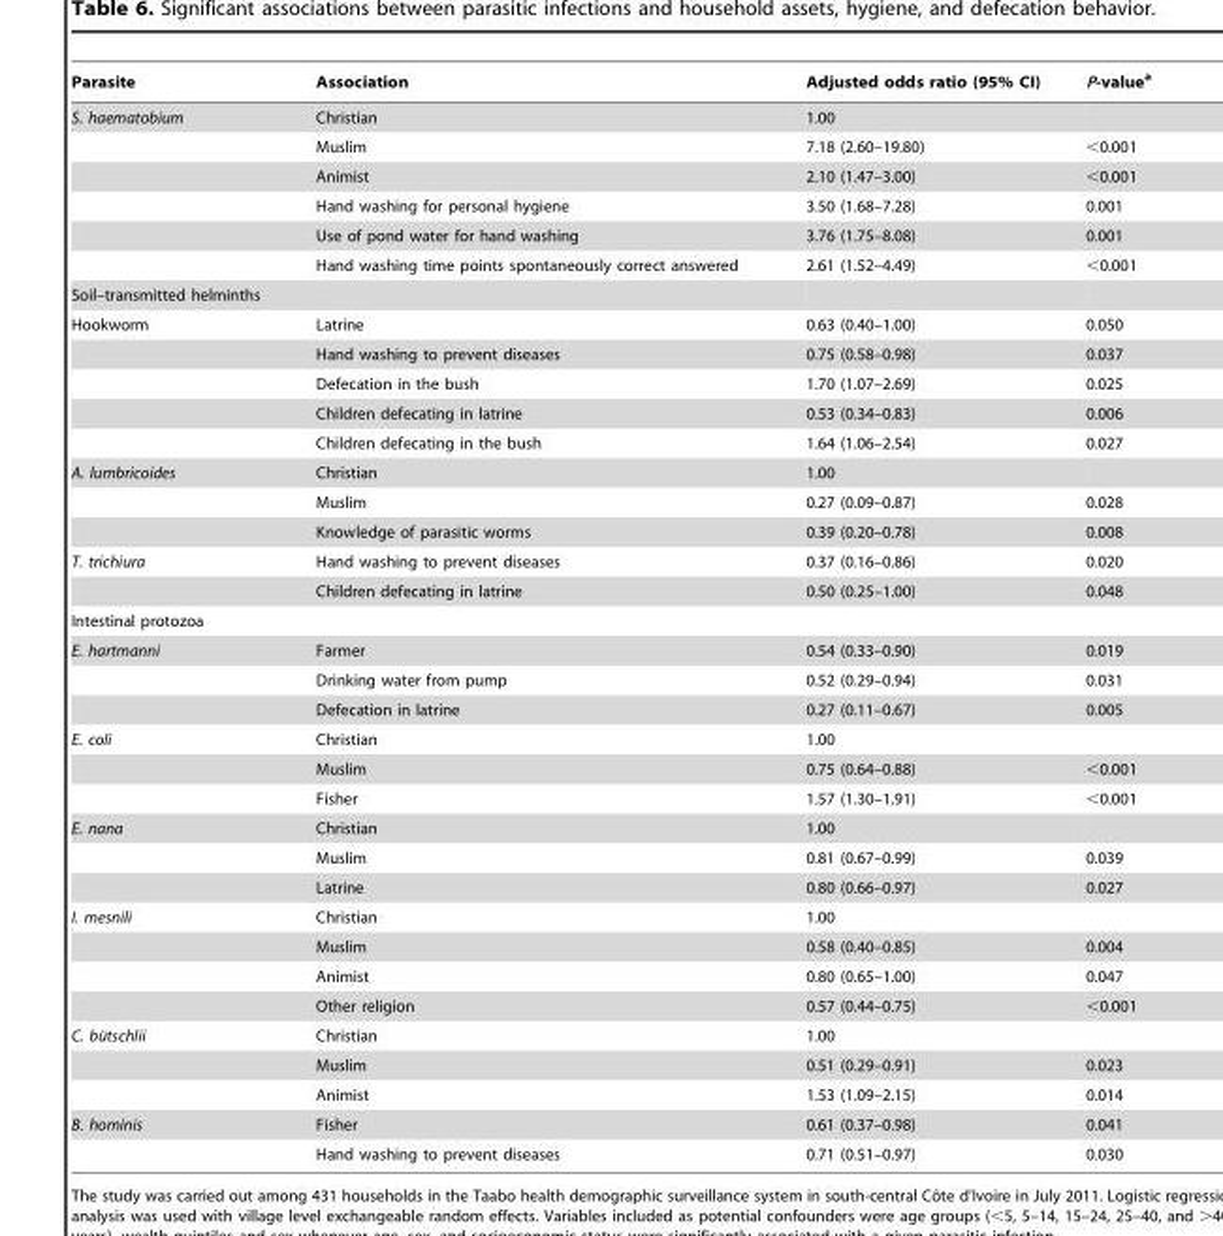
<table><thead><tr><td>Parasite</td><td>Association</td><td>Adjusted odds ratio (95% CI)</td><td>P-value<sup>a</sup></td></tr></thead><tbody><tr><td rowspan="6">S. haematobium</td><td>Christian</td><td>1.00</td><td></td></tr><tr><td>Muslim</td><td>7.18 (2.60–19.80)</td><td>&lt;0.001</td></tr><tr><td>Animist</td><td>2.10 (1.47–3.00)</td><td>&lt;0.001</td></tr><tr><td>Hand washing for personal hygiene</td><td>3.50 (1.68–7.28)</td><td>0.001</td></tr><tr><td>Use of pond water for hand washing</td><td>3.76 (1.75–8.08)</td><td>0.001</td></tr><tr><td>Hand washing time points spontaneously correct answered</td><td>2.61 (1.52–4.49)</td><td>&lt;0.001</td></tr><tr><td colspan="4">Soil–transmitted helminths</td></tr><tr><td rowspan="5">Hookworm</td><td>Latrine</td><td>0.63 (0.40–1.00)</td><td>0.050</td></tr><tr><td>Hand washing to prevent diseases</td><td>0.75 (0.58–0.98)</td><td>0.037</td></tr><tr><td>Defecation in the bush</td><td>1.70 (1.07–2.69)</td><td>0.025</td></tr><tr><td>Children defecating in latrine</td><td>0.53 (0.34–0.83)</td><td>0.006</td></tr><tr><td>Children defecating in the bush</td><td>1.64 (1.06–2.54)</td><td>0.027</td></tr><tr><td rowspan="3">A. lumbricoides</td><td>Christian</td><td>1.00</td><td></td></tr><tr><td>Muslim</td><td>0.27 (0.09–0.87)</td><td>0.028</td></tr><tr><td>Knowledge of parasitic worms</td><td>0.39 (0.20–0.78)</td><td>0.008</td></tr><tr><td rowspan="2">T. trichiura</td><td>Hand washing to prevent diseases</td><td>0.37 (0.16–0.86)</td><td>0.020</td></tr><tr><td>Children defecating in latrine</td><td>0.50 (0.25–1.00)</td><td>0.048</td></tr><tr><td colspan="4">Intestinal protozoa</td></tr><tr><td rowspan="3">E. hartmanni</td><td>Farmer</td><td>0.54 (0.33–0.90)</td><td>0.019</td></tr><tr><td>Drinking water from pump</td><td>0.52 (0.29–0.94)</td><td>0.031</td></tr><tr><td>Defecation in latrine</td><td>0.27 (0.11–0.67)</td><td>0.005</td></tr><tr><td rowspan="3">E. coli</td><td>Christian</td><td>1.00</td><td></td></tr><tr><td>Muslim</td><td>0.75 (0.64–0.88)</td><td>&lt;0.001</td></tr><tr><td>Fisher</td><td>1.57 (1.30–1.91)</td><td>&lt;0.001</td></tr><tr><td rowspan="3">E. nana</td><td>Christian</td><td>1.00</td><td></td></tr><tr><td>Muslim</td><td>0.81 (0.67–0.99)</td><td>0.039</td></tr><tr><td>Latrine</td><td>0.80 (0.66–0.97)</td><td>0.027</td></tr><tr><td rowspan="4">I. mesnili</td><td>Christian</td><td>1.00</td><td></td></tr><tr><td>Muslim</td><td>0.58 (0.40–0.85)</td><td>0.004</td></tr><tr><td>Animist</td><td>0.80 (0.65–1.00)</td><td>0.047</td></tr><tr><td>Other religion</td><td>0.57 (0.44–0.75)</td><td>&lt;0.001</td></tr><tr><td rowspan="3">C. bu¨tschlii</td><td>Christian</td><td>1.00</td><td></td></tr><tr><td>Muslim</td><td>0.51 (0.29–0.91)</td><td>0.023</td></tr><tr><td>Animist</td><td>1.53 (1.09–2.15)</td><td>0.014</td></tr><tr><td rowspan="2">B. hominis</td><td>Fisher</td><td>0.61 (0.37–0.98)</td><td>0.041</td></tr><tr><td>Hand washing to prevent diseases</td><td>0.71 (0.51–0.97)</td><td>0.030</td></tr></tbody></table>